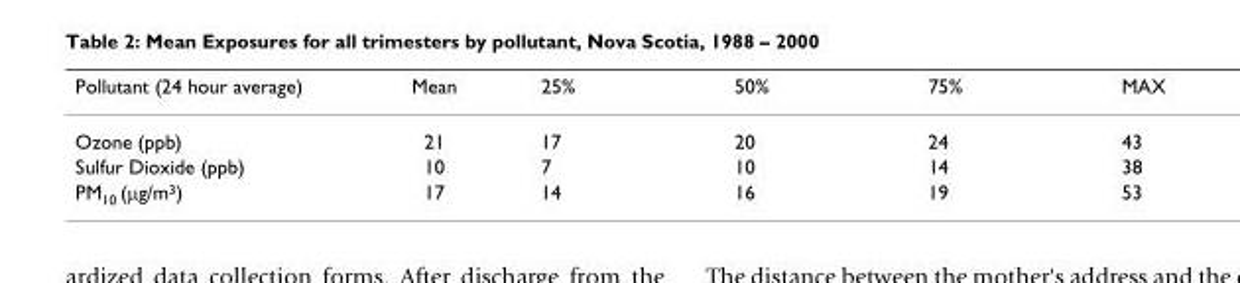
<table><thead><tr><td>Pollutant (24 hour average)</td><td>Mean</td><td>25%</td><td>50%</td><td>75%</td><td>MAX</td></tr></thead><tbody><tr><td>Ozone (ppb)</td><td>21</td><td>17</td><td>20</td><td>24</td><td>43</td></tr><tr><td>Sulfur Dioxide (ppb)</td><td>10</td><td>7</td><td>10</td><td>14</td><td>38</td></tr><tr><td>PM<sub>10</sub> (µg/m<sup>3</sup>)</td><td>17</td><td>14</td><td>16</td><td>19</td><td>53</td></tr></tbody></table>